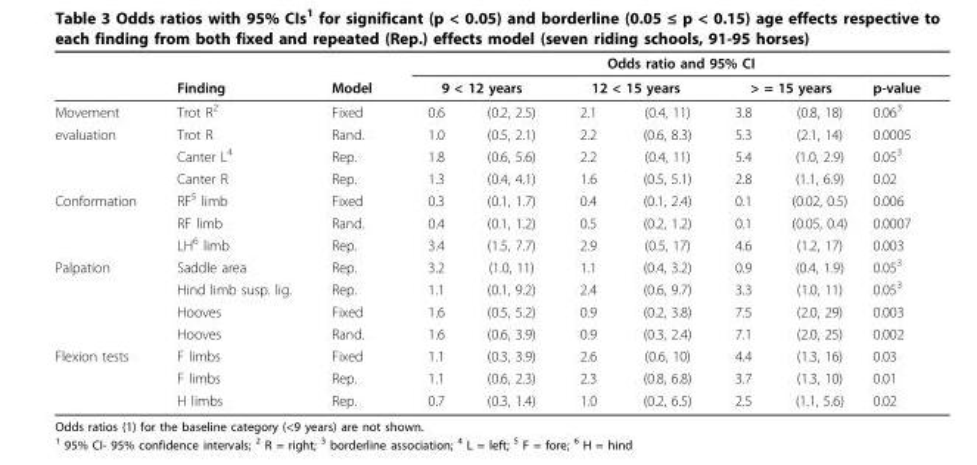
<table><thead><tr><td rowspan="3">Movement</td><td rowspan="3">Finding Trot R<sup>2</sup></td><td rowspan="3">Model Fixed</td><td colspan="7">Odds ratio and 95% CI</td></tr><tr><td colspan="2">9 &lt; 12 years</td><td colspan="2">12 &lt; 15 years</td><td colspan="2">&gt; = 15 years</td><td rowspan="2">p-value 0.06<sup>3</sup></td></tr><tr><td>0.6</td><td>(0.2, 2.5)</td><td>2.1</td><td>(0.4, 11)</td><td>3.8</td><td>(0.8, 18)</td></tr></thead><tbody><tr><td rowspan="3">evaluation</td><td>Trot R</td><td>Rand.</td><td>1.0</td><td>(0.5, 2.1)</td><td>2.2</td><td>(0.6, 8.3)</td><td>5.3</td><td>(2.1, 14)</td><td>0.0005</td></tr><tr><td>Canter L<sup>4</sup></td><td>Rep.</td><td>1.8</td><td>(0.6, 5.6)</td><td>2.2</td><td>(0.4, 11)</td><td>5.4</td><td>(1.0, 2.9)</td><td>0.05<sup>3</sup></td></tr><tr><td>Canter R</td><td>Rep.</td><td>1.3</td><td>(0.4, 4.1)</td><td>1.6</td><td>(0.5, 5.1)</td><td>2.8</td><td>(1.1, 6.9)</td><td>0.02</td></tr><tr><td rowspan="3">Conformation</td><td>RF<sup>5</sup> limb</td><td>Fixed</td><td>0.3</td><td>(0.1, 1.7)</td><td>0.4</td><td>(0.1, 2.4)</td><td>0.1</td><td>(0.02, 0.5)</td><td>0.006</td></tr><tr><td>RF limb</td><td>Rand.</td><td>0.4</td><td>(0.1, 1.2)</td><td>0.5</td><td>(0.2, 1.2)</td><td>0.1</td><td>(0.05, 0.4)</td><td>0.0007</td></tr><tr><td>LH<sup>6</sup> limb</td><td>Rep.</td><td>3.4</td><td>(1.5, 7.7)</td><td>2.9</td><td>(0.5, 17)</td><td>4.6</td><td>(1.2, 17)</td><td>0.003</td></tr><tr><td rowspan="4">Palpation</td><td>Saddle area</td><td>Rep.</td><td>3.2</td><td>(1.0, 11)</td><td>1.1</td><td>(0.4, 3.2)</td><td>0.9</td><td>(0.4, 1.9)</td><td>0.05<sup>3</sup></td></tr><tr><td>Hind limb susp. lig.</td><td>Rep.</td><td>1.1</td><td>(0.1, 9.2)</td><td>2.4</td><td>(0.6, 9.7)</td><td>3.3</td><td>(1.0, 11)</td><td>0.05<sup>3</sup></td></tr><tr><td>Hooves</td><td>Fixed</td><td>1.6</td><td>(0.5, 5.2)</td><td>0.9</td><td>(0.2, 3.8)</td><td>7.5</td><td>(2.0, 29)</td><td>0.003</td></tr><tr><td>Hooves</td><td>Rand.</td><td>1.6</td><td>(0.6, 3.9)</td><td>0.9</td><td>(0.3, 2.4)</td><td>7.1</td><td>(2.0, 25)</td><td>0.002</td></tr><tr><td rowspan="3">Flexion tests</td><td>F limbs</td><td>Fixed</td><td>1.1</td><td>(0.3, 3.9)</td><td>2.6</td><td>(0.6, 10)</td><td>4.4</td><td>(1.3, 16)</td><td>0.03</td></tr><tr><td>F limbs</td><td>Rep.</td><td>1.1</td><td>(0.6, 2.3)</td><td>2.3</td><td>(0.8, 6.8)</td><td>3.7</td><td>(1.3, 10)</td><td>0.01</td></tr><tr><td>H limbs</td><td>Rep.</td><td>0.7</td><td>(0.3, 1.4)</td><td>1.0</td><td>(0.2, 6.5)</td><td>2.5</td><td>(1.1, 5.6)</td><td>0.02</td></tr></tbody></table>